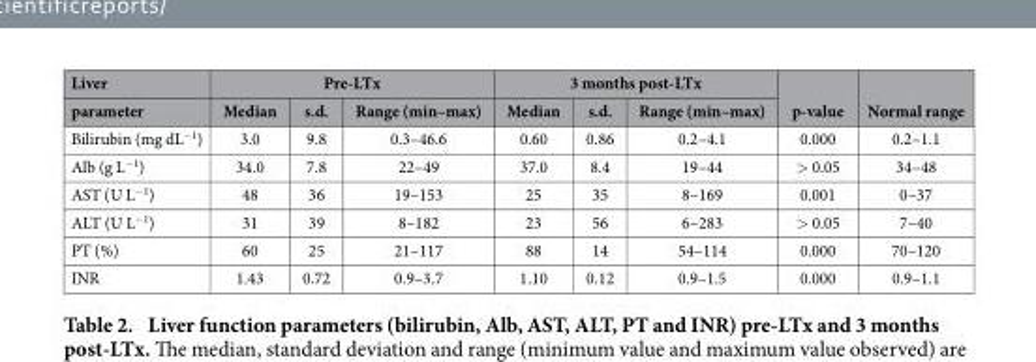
<table><thead><tr><td rowspan="2">Liver parameter</td><td colspan="3">Pre-LTx</td><td colspan="3">3 months post-LTx</td><td rowspan="2">p-value</td><td rowspan="2">Normal range</td></tr><tr><td>Median</td><td>s.d.</td><td>Range (min–max)</td><td>Median</td><td>s.d.</td><td>Range (min–max)</td></tr></thead><tbody><tr><td>Bilirubin (mg dL<sup>−1</sup>)</td><td>3.0</td><td>9.8</td><td>0.3–46.6</td><td>0.60</td><td>0.86</td><td>0.2–4.1</td><td>0.000</td><td>0.2–1.1</td></tr><tr><td>Alb (g L<sup>−1</sup>)</td><td>34.0</td><td>7.8</td><td>22–49</td><td>37.0</td><td>8.4</td><td>19–44</td><td>&gt; 0.05</td><td>34–48</td></tr><tr><td>AST (U L<sup>−1</sup>)</td><td>48</td><td>36</td><td>19–153</td><td>25</td><td>35</td><td>8–169</td><td>0.001</td><td>0–37</td></tr><tr><td>ALT (U L<sup>−1</sup>)</td><td>31</td><td>39</td><td>8–182</td><td>23</td><td>56</td><td>6–283</td><td>&gt; 0.05</td><td>7–40</td></tr><tr><td>PT (%)</td><td>60</td><td>25</td><td>21–117</td><td>88</td><td>14</td><td>54–114</td><td>0.000</td><td>70–120</td></tr><tr><td>INR</td><td>1.43</td><td>0.72</td><td>0.9–3.7</td><td>1.10</td><td>0.12</td><td>0.9–1.5</td><td>0.000</td><td>0.9–1.1</td></tr></tbody></table>